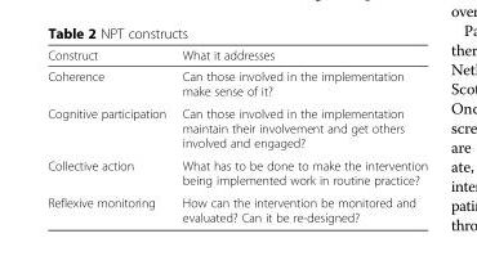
<table><thead><tr><td>Construct</td><td>What it addresses</td></tr></thead><tbody><tr><td>Coherence</td><td>Can those involved in the implementation make sense of it?</td></tr><tr><td>Cognitive participation</td><td>Can those involved in the implementation maintain their involvement and get others involved and engaged?</td></tr><tr><td>Collective action</td><td>What has to be done to make the intervention being implemented work in routine practice?</td></tr><tr><td>Reflexive monitoring</td><td>How can the intervention be monitored and evaluated? Can it be re-designed?</td></tr></tbody></table>